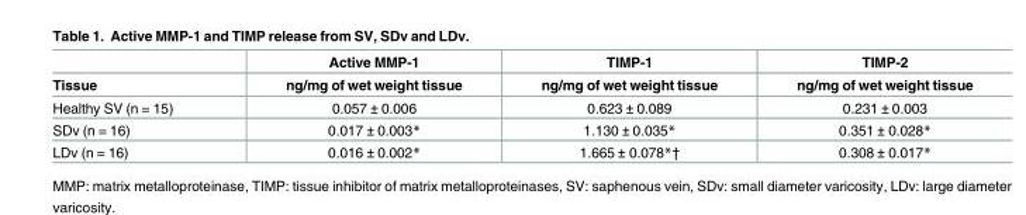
<table><thead><tr><td rowspan="2">Tissue</td><td rowspan="2">Active MMP-1 ng/mg of wet weight tissue</td><td rowspan="2">TIMP-1 ng/mg of wet weight tissue</td><td rowspan="2">TIMP-2 ng/mg of wet weight tissue</td></tr><tr></tr></thead><tbody><tr><td>Healthy SV (n = 15)</td><td>0.057 ± 0.006</td><td>0.623 ± 0.089</td><td>0.231 ± 0.003</td></tr><tr><td>SDv (n = 16)</td><td>0.017 ± 0.003*</td><td>1.130 ± 0.035*</td><td>0.351 ± 0.028*</td></tr><tr><td>LDv (n = 16)</td><td>0.016 ± 0.002*</td><td>1.665 ± 0.078*†</td><td>0.308 ± 0.017*</td></tr></tbody></table>